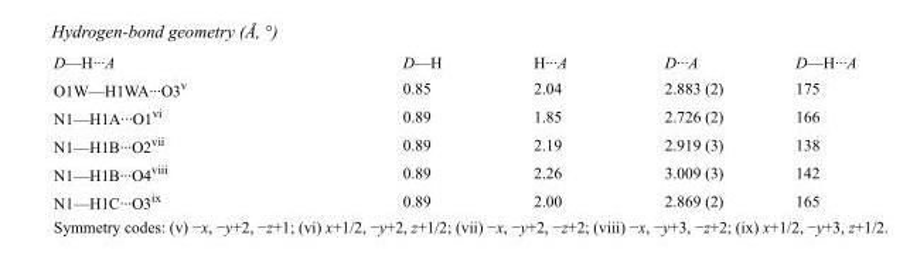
<table><tbody><tr><td>D—H···A</td><td>D—H</td><td>H···A</td><td>D···A</td><td>D—H···A</td></tr><tr><td>O1W—H1WA···O3<sup>v</sup></td><td>0.85</td><td>2.04</td><td>2.883 (2)</td><td>175</td></tr><tr><td>N1—H1A···O1<sup>vi</sup></td><td>0.89</td><td>1.85</td><td>2.726 (2)</td><td>166</td></tr><tr><td>N1—H1B···O2<sup>vii</sup></td><td>0.89</td><td>2.19</td><td>2.919 (3)</td><td>138</td></tr><tr><td>N1—H1B···O4<sup>viii</sup></td><td>0.89</td><td>2.26</td><td>3.009 (3)</td><td>142</td></tr><tr><td>N1—H1C···O3<sup>ix</sup></td><td>0.89</td><td>2.00</td><td>2.869 (2)</td><td>165</td></tr></tbody></table>